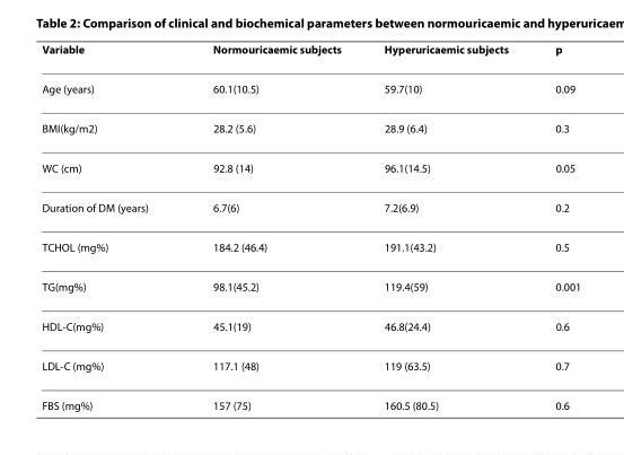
<table><thead><tr><td>Variable</td><td>Normouricaemic subjects</td><td>Hyperuricaemic subjects</td><td>p</td></tr></thead><tbody><tr><td>Age (years)</td><td>60.1(10.5)</td><td>59.7(10)</td><td>0.09</td></tr><tr><td>BMI(kg/m2)</td><td>28.2 (5.6)</td><td>28.9 (6.4)</td><td>0.3</td></tr><tr><td>WC (cm)</td><td>92.8 (14)</td><td>96.1(14.5)</td><td>0.05</td></tr><tr><td>Duration of DM (years)</td><td>6.7(6)</td><td>7.2(6.9)</td><td>0.2</td></tr><tr><td>TCHOL (mg%)</td><td>184.2 (46.4)</td><td>191.1(43.2)</td><td>0.5</td></tr><tr><td>TG(mg%)</td><td>98.1(45.2)</td><td>119.4(59)</td><td>0.001</td></tr><tr><td>HDL-C(mg%)</td><td>45.1(19)</td><td>46.8(24.4)</td><td>0.6</td></tr><tr><td>LDL-C (mg%)</td><td>117.1 (48)</td><td>119 (63.5)</td><td>0.7</td></tr><tr><td>FBS (mg%)</td><td>157 (75)</td><td>160.5 (80.5)</td><td>0.6</td></tr></tbody></table>